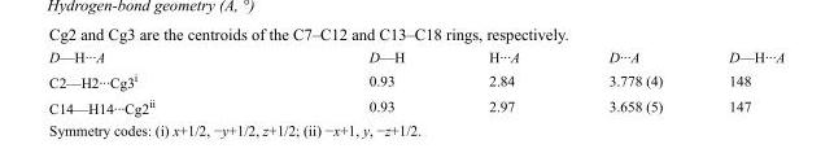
<table><tbody><tr><td>D—H···A</td><td>D—H</td><td>H···A</td><td>D···A</td><td>D—H···A</td></tr><tr><td>C2—H2···Cg3<sup>i</sup></td><td>0.93</td><td>2.84</td><td>3.778 (4)</td><td>148</td></tr><tr><td>C14—H14···Cg2<sup>ii</sup></td><td>0.93</td><td>2.97</td><td>3.658 (5)</td><td>147</td></tr></tbody></table>